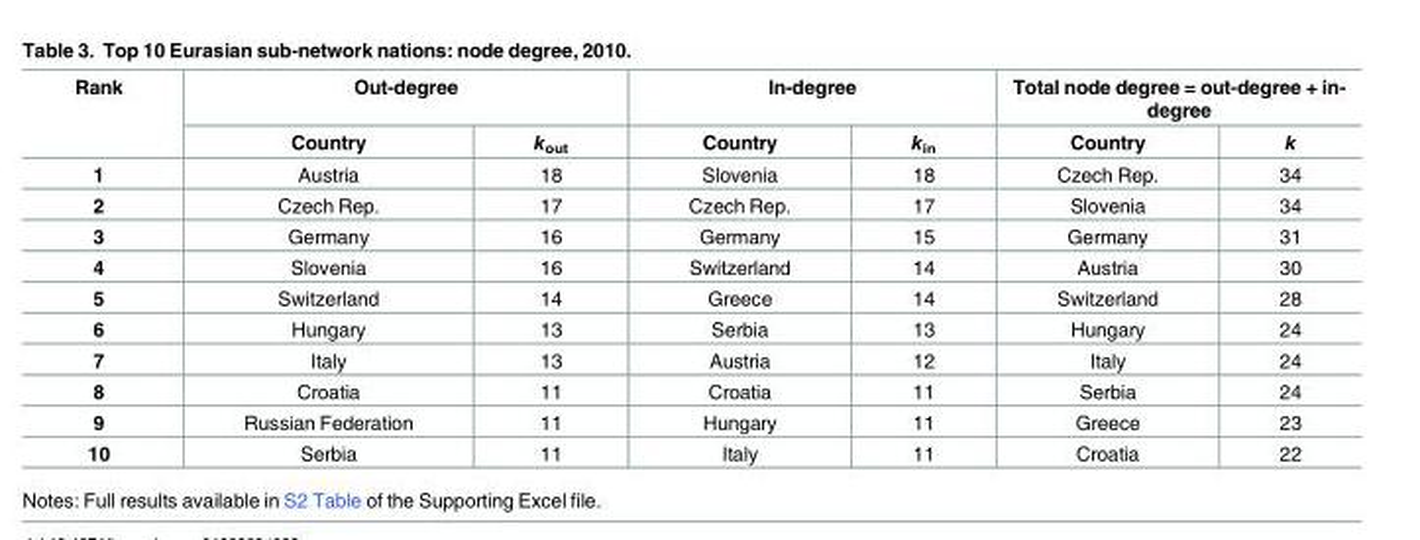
<table><thead><tr><td rowspan="2">Rank</td><td colspan="2">Out-degree</td><td colspan="2">In-degree</td><td colspan="2">Total node degree = out-degree + in- degree</td></tr><tr><td>Country</td><td>k<sub>out</sub></td><td>Country</td><td>k<sub>in</sub></td><td>Country</td><td>k</td></tr></thead><tbody><tr><td>1</td><td>Austria</td><td>18</td><td>Slovenia</td><td>18</td><td>Czech Rep.</td><td>34</td></tr><tr><td>2</td><td>Czech Rep.</td><td>17</td><td>Czech Rep.</td><td>17</td><td>Slovenia</td><td>34</td></tr><tr><td>3</td><td>Germany</td><td>16</td><td>Germany</td><td>15</td><td>Germany</td><td>31</td></tr><tr><td>4</td><td>Slovenia</td><td>16</td><td>Switzerland</td><td>14</td><td>Austria</td><td>30</td></tr><tr><td>5</td><td>Switzerland</td><td>14</td><td>Greece</td><td>14</td><td>Switzerland</td><td>28</td></tr><tr><td>6</td><td>Hungary</td><td>13</td><td>Serbia</td><td>13</td><td>Hungary</td><td>24</td></tr><tr><td>7</td><td>Italy</td><td>13</td><td>Austria</td><td>12</td><td>Italy</td><td>24</td></tr><tr><td>8</td><td>Croatia</td><td>11</td><td>Croatia</td><td>11</td><td>Serbia</td><td>24</td></tr><tr><td>9</td><td>Russian Federation</td><td>11</td><td>Hungary</td><td>11</td><td>Greece</td><td>23</td></tr><tr><td>10</td><td>Serbia</td><td>11</td><td>Italy</td><td>11</td><td>Croatia</td><td>22</td></tr></tbody></table>